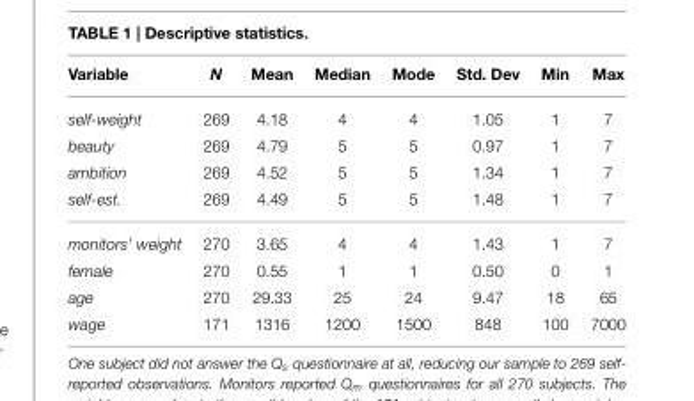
<table><thead><tr><td>Variable</td><td>N</td><td>Mean</td><td>Median</td><td>Mode</td><td>Std. Dev</td><td>Min</td><td>Max</td></tr></thead><tbody><tr><td>self-weight</td><td>269</td><td>4.18</td><td>4</td><td>4</td><td>1.05</td><td>1</td><td>7</td></tr><tr><td>beauty</td><td>269</td><td>4.79</td><td>5</td><td>5</td><td>0.97</td><td>1</td><td>7</td></tr><tr><td>ambition</td><td>269</td><td>4.52</td><td>5</td><td>5</td><td>1.34</td><td>1</td><td>7</td></tr><tr><td>self-est.</td><td>269</td><td>4.49</td><td>5</td><td>5</td><td>1.48</td><td>1</td><td>7</td></tr><tr><td>monitors’ weight</td><td>270</td><td>3.65</td><td>4</td><td>4</td><td>1.43</td><td>1</td><td>7</td></tr><tr><td>female</td><td>270</td><td>0.55</td><td>1</td><td>1</td><td>0.50</td><td>0</td><td>1</td></tr><tr><td>age</td><td>270</td><td>29.33</td><td>25</td><td>24</td><td>9.47</td><td>18</td><td>65</td></tr><tr><td>wage</td><td>171</td><td>1316</td><td>1200</td><td>1500</td><td>848</td><td>100</td><td>7000</td></tr></tbody></table>